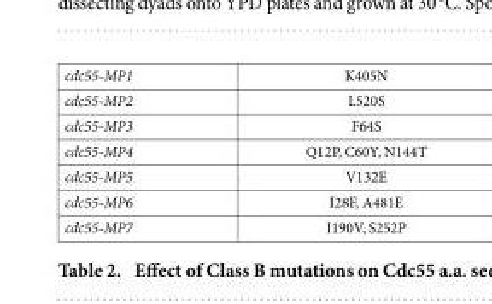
<table><tbody><tr><td>cdc55-MP1</td><td>K405N</td></tr><tr><td>cdc55-MP2</td><td>L520S</td></tr><tr><td>cdc55-MP3</td><td>F64S</td></tr><tr><td>cdc55-MP4</td><td>Q12P, C60Y, N144T</td></tr><tr><td>cdc55-MP5</td><td>V132E</td></tr><tr><td>cdc55-MP6</td><td>I28F, A481E</td></tr><tr><td>cdc55-MP7</td><td>I190V, S252P</td></tr></tbody></table>